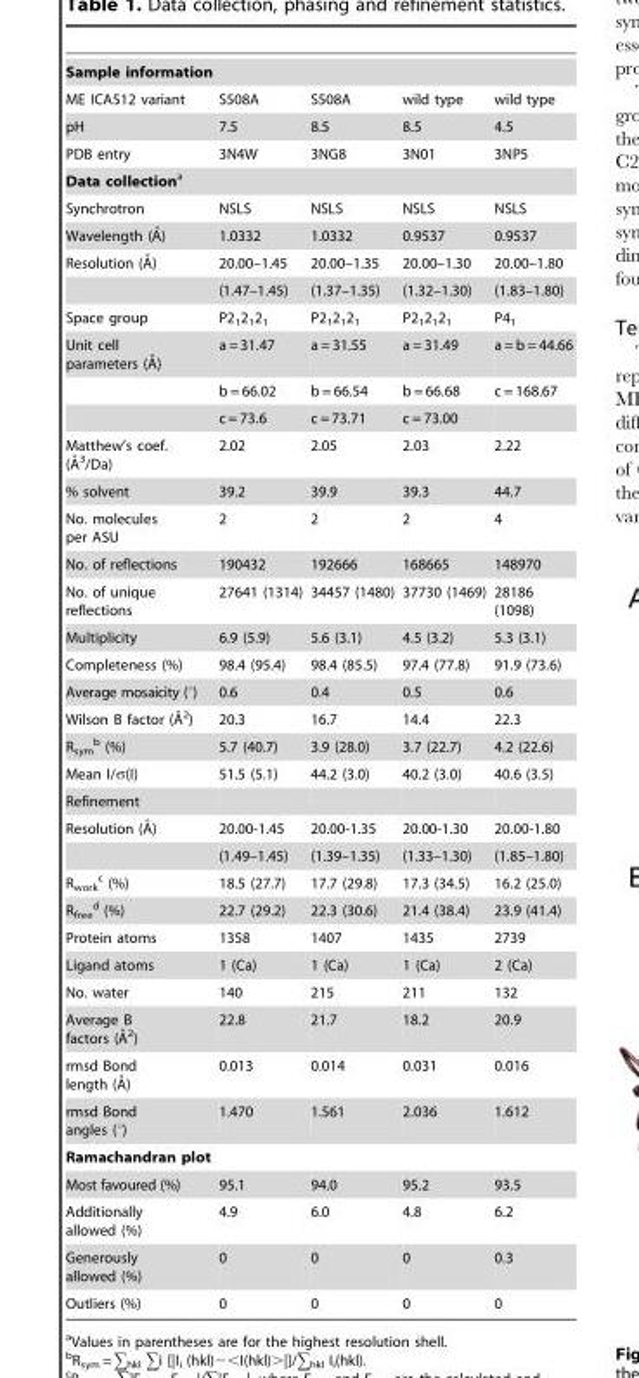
<table><tbody><tr><td colspan="5">Sample information</td></tr><tr><td>ME ICA512 variant</td><td>S508A</td><td>S508A</td><td>wild type</td><td>wild type</td></tr><tr><td>pH</td><td>7.5</td><td>8.5</td><td>8.5</td><td>4.5</td></tr><tr><td>PDB entry</td><td>3N4W</td><td>3NG8</td><td>3N01</td><td>3NP5</td></tr><tr><td colspan="5">Data collectiona</td></tr><tr><td>Synchrotron</td><td>NSLS</td><td>NSLS</td><td>NSLS</td><td>NSLS</td></tr><tr><td>Wavelength (A˚)</td><td>1.0332</td><td>1.0332</td><td>0.9537</td><td>0.9537</td></tr><tr><td rowspan="2">Resolution (A˚)</td><td>20.00–1.45</td><td>20.00–1.35</td><td>20.00–1.30</td><td>20.00–1.80</td></tr><tr><td>(1.47–1.45)</td><td>(1.37–1.35)</td><td>(1.32–1.30)</td><td>(1.83–1.80)</td></tr><tr><td>Space group</td><td>P2<sub>1</sub>2<sub>1</sub>2<sub>1</sub></td><td>P2<sub>1</sub>2<sub>1</sub>2<sub>1</sub></td><td>P2<sub>1</sub>2<sub>1</sub>2<sub>1</sub></td><td>P4<sub>1</sub></td></tr><tr><td rowspan="3">Unit cell parameters (A˚)</td><td>a = 31.47</td><td>a = 31.55</td><td>a = 31.49</td><td>a = b = 44.66</td></tr><tr><td>b = 66.02</td><td>b = 66.54</td><td>b = 66.68</td><td>c = 168.67</td></tr><tr><td>c = 73.6</td><td>c = 73.71</td><td>c = 73.00</td><td></td></tr><tr><td>Matthew’s coef. (A˚3/Da)</td><td>2.02</td><td>2.05</td><td>2.03</td><td>2.22</td></tr><tr><td>% solvent</td><td>39.2</td><td>39.9</td><td>39.3</td><td>44.7</td></tr><tr><td>No. molecules per ASU</td><td>2</td><td>2</td><td>2</td><td>4</td></tr><tr><td>No. of reflections</td><td>190432</td><td>192666</td><td>168665</td><td>148970</td></tr><tr><td>No. of unique reflections</td><td>27641 (1314)</td><td>34457 (1480)</td><td>37730 (1469)</td><td>28186 (1098)</td></tr><tr><td>Multiplicity</td><td>6.9 (5.9)</td><td>5.6 (3.1)</td><td>4.5 (3.2)</td><td>5.3 (3.1)</td></tr><tr><td>Completeness (%)</td><td>98.4 (95.4)</td><td>98.4 (85.5)</td><td>97.4 (77.8)</td><td>91.9 (73.6)</td></tr><tr><td>Average mosaicity (°)</td><td>0.6</td><td>0.4</td><td>0.5</td><td>0.6</td></tr><tr><td>Wilson B factor (A˚2)</td><td>20.3</td><td>16.7</td><td>14.4</td><td>22.3</td></tr><tr><td>R<sub>sym</sub> b (%)</td><td>5.7 (40.7)</td><td>3.9 (28.0)</td><td>3.7 (22.7)</td><td>4.2 (22.6)</td></tr><tr><td>Mean I/σ(I)</td><td>51.5 (5.1)</td><td>44.2 (3.0)</td><td>40.2 (3.0)</td><td>40.6 (3.5)</td></tr><tr><td colspan="5">Refinement</td></tr><tr><td rowspan="2">Resolution (A˚)</td><td>20.00-1.45</td><td>20.00-1.35</td><td>20.00-1.30</td><td>20.00-1.80</td></tr><tr><td>(1.49–1.45)</td><td>(1.39–1.35)</td><td>(1.33–1.30)</td><td>(1.85–1.80)</td></tr><tr><td>R<sub>work</sub> c (%)</td><td>18.5 (27.7)</td><td>17.7 (29.8)</td><td>17.3 (34.5)</td><td>16.2 (25.0)</td></tr><tr><td>R<sub>free</sub> d (%)</td><td>22.7 (29.2)</td><td>22.3 (30.6)</td><td>21.4 (38.4)</td><td>23.9 (41.4)</td></tr><tr><td>Protein atoms</td><td>1358</td><td>1407</td><td>1435</td><td>2739</td></tr><tr><td>Ligand atoms</td><td>1 (Ca)</td><td>1 (Ca)</td><td>1 (Ca)</td><td>2 (Ca)</td></tr><tr><td>No. water</td><td>140</td><td>215</td><td>211</td><td>132</td></tr><tr><td>Average B factors (A˚ 2)</td><td>22.8</td><td>21.7</td><td>18.2</td><td>20.9</td></tr><tr><td>rmsd Bond length (A˚)</td><td>0.013</td><td>0.014</td><td>0.031</td><td>0.016</td></tr><tr><td>rmsd Bond angles (°)</td><td>1.470</td><td>1.561</td><td>2.036</td><td>1.612</td></tr><tr><td colspan="5">Ramachandran plot</td></tr><tr><td>Most favoured (%)</td><td>95.1</td><td>94.0</td><td>95.2</td><td>93.5</td></tr><tr><td>Additionally allowed (%)</td><td>4.9</td><td>6.0</td><td>4.8</td><td>6.2</td></tr><tr><td>Generously allowed (%)</td><td>0</td><td>0</td><td>0</td><td>0.3</td></tr><tr><td>Outliers (%)</td><td>0</td><td>0</td><td>0</td><td>0</td></tr></tbody></table>